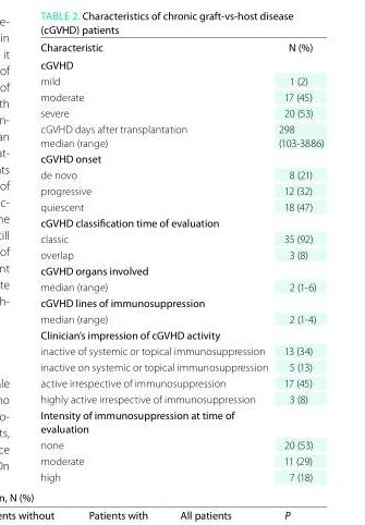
<table><thead><tr><td>Characteristic</td><td>N (%)</td></tr></thead><tbody><tr><td colspan="2">cGVhD</td></tr><tr><td>mild</td><td>1 (2)</td></tr><tr><td>moderate</td><td>17 (45)</td></tr><tr><td>severe</td><td>20 (53)</td></tr><tr><td>cGVHD days after transplantation median (range)</td><td>298 (103-3886)</td></tr><tr><td colspan="2">cGVhD onset</td></tr><tr><td>de novo</td><td>8 (21)</td></tr><tr><td>progressive</td><td>12 (32)</td></tr><tr><td>quiescent</td><td>18 (47)</td></tr><tr><td colspan="2">cGVhD classification time of evaluation</td></tr><tr><td>classic</td><td>35 (92)</td></tr><tr><td>overlap</td><td>3 (8)</td></tr><tr><td>cGVhD organs involved median (range)</td><td>2 (1-6)</td></tr><tr><td>cGVhD lines of immunosuppression median (range)</td><td>2 (1-4)</td></tr><tr><td colspan="2">Clinician’s impression of cGVhD activity</td></tr><tr><td>inactive of systemic or topical immunosuppression</td><td>13 (34)</td></tr><tr><td>inactive on systemic or topical immunosuppression</td><td>5 (13)</td></tr><tr><td>active irrespective of immunosuppression</td><td>17 (45)</td></tr><tr><td>highly active irrespective of immunosuppression</td><td>3 (8)</td></tr><tr><td colspan="2">intensity of immunosuppression at time of evaluation</td></tr><tr><td>none</td><td>20 (53)</td></tr><tr><td>moderate</td><td>11 (29)</td></tr><tr><td>high</td><td>7 (18)</td></tr></tbody></table>